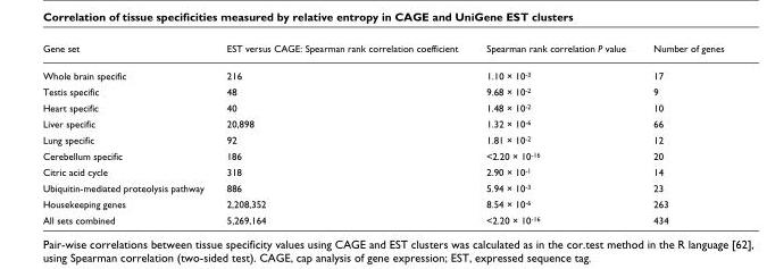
<table><thead><tr><td>Gene set</td><td>EST versus CAGE: Spearman rank correlation coefficient</td><td>Spearman rank correlation P value</td><td>Number of genes</td></tr></thead><tbody><tr><td>Whole brain specific</td><td>216</td><td>1.10 × 10-3</td><td>17</td></tr><tr><td>Testis specific</td><td>48</td><td>9.68 × 10-2</td><td>9</td></tr><tr><td>Heart specific</td><td>40</td><td>1.48 × 10-2</td><td>10</td></tr><tr><td>Liver specific</td><td>20,898</td><td>1.32 × 10-6</td><td>66</td></tr><tr><td>Lung specific</td><td>92</td><td>1.81 × 10-2</td><td>12</td></tr><tr><td>Cerebellum specific</td><td>186</td><td>&lt;2.20 × 10-16</td><td>20</td></tr><tr><td>Citric acid cycle</td><td>318</td><td>2.90 × 10-1</td><td>14</td></tr><tr><td>Ubiquitin-mediated proteolysis pathway</td><td>886</td><td>5.94 × 10-3</td><td>23</td></tr><tr><td>Housekeeping genes</td><td>2,208,352</td><td>8.54 × 10-6</td><td>263</td></tr><tr><td>All sets combined</td><td>5,269,164</td><td>&lt;2.20 × 10-16</td><td>434</td></tr></tbody></table>